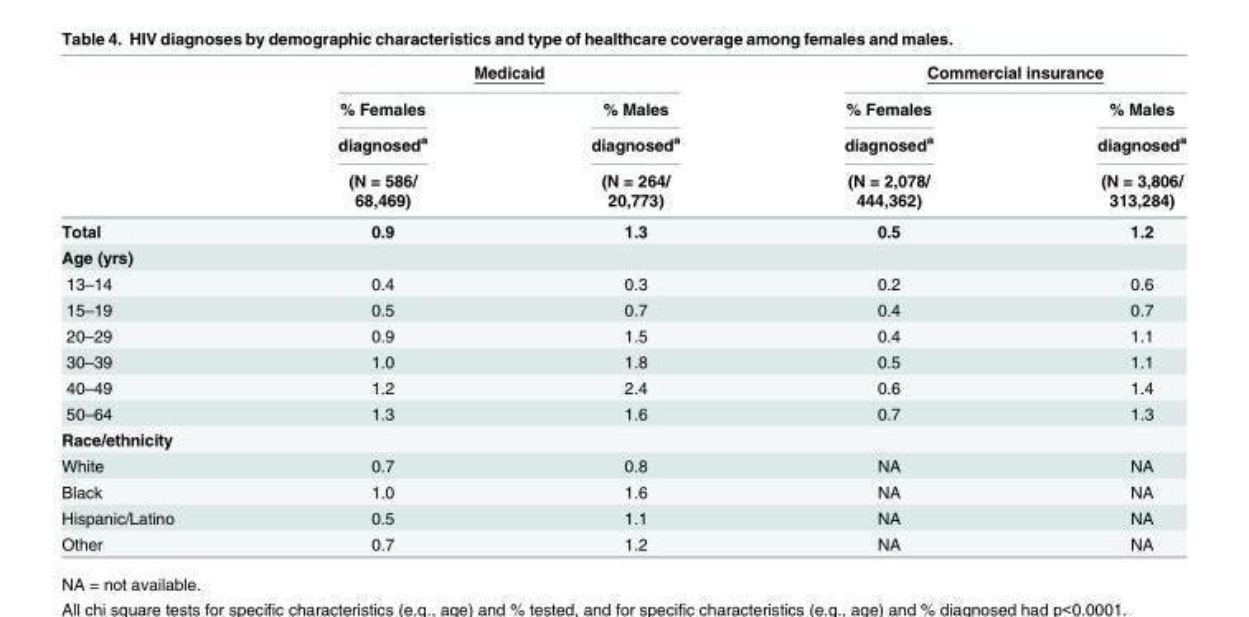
<table><thead><tr><td rowspan="5"></td><td colspan="2">Medicaid</td><td colspan="2">Commercial insurance</td></tr><tr><td rowspan="4">% Females diagnosed<sup>a</sup> (N = 586/ 68,469)</td><td rowspan="4">% Males diagnosed<sup>a</sup> (N = 264/ 20,773)</td><td rowspan="4">% Females diagnosed<sup>a</sup> (N = 2,078/ 444,362)</td><td rowspan="4">% Males diagnosed<sup>a</sup> (N = 3,806/ 313,284)</td></tr><tr></tr><tr></tr><tr></tr></thead><tbody><tr><td>Total</td><td>0.9</td><td>1.3</td><td>0.5</td><td>1.2</td></tr><tr><td colspan="5">Age (yrs)</td></tr><tr><td>13–14</td><td>0.4</td><td>0.3</td><td>0.2</td><td>0.6</td></tr><tr><td>15–19</td><td>0.5</td><td>0.7</td><td>0.4</td><td>0.7</td></tr><tr><td>20–29</td><td>0.9</td><td>1.5</td><td>0.4</td><td>1.1</td></tr><tr><td>30–39</td><td>1.0</td><td>1.8</td><td>0.5</td><td>1.1</td></tr><tr><td>40–49</td><td>1.2</td><td>2.4</td><td>0.6</td><td>1.4</td></tr><tr><td>50–64</td><td>1.3</td><td>1.6</td><td>0.7</td><td>1.3</td></tr><tr><td colspan="5">Race/ethnicity</td></tr><tr><td>White</td><td>0.7</td><td>0.8</td><td>NA</td><td>NA</td></tr><tr><td>Black</td><td>1.0</td><td>1.6</td><td>NA</td><td>NA</td></tr><tr><td>Hispanic/Latino</td><td>0.5</td><td>1.1</td><td>NA</td><td>NA</td></tr><tr><td>Other</td><td>0.7</td><td>1.2</td><td>NA</td><td>NA</td></tr></tbody></table>